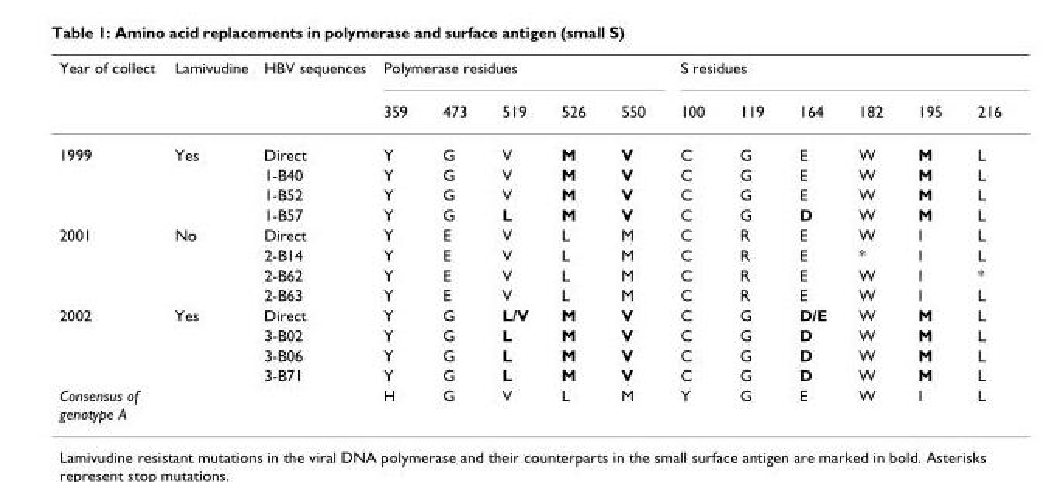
<table><thead><tr><td rowspan="2">Year of collect</td><td rowspan="2">Lamivudine</td><td rowspan="2">HBV sequences</td><td colspan="5">Polymerase residues</td><td colspan="6">S residues</td></tr><tr><td>359</td><td>473</td><td>519</td><td>526</td><td>550</td><td>100</td><td>119</td><td>164</td><td>182</td><td>195</td><td>216</td></tr></thead><tbody><tr><td rowspan="4">1999</td><td>Yes</td><td>Direct</td><td>Y</td><td>G</td><td>V</td><td>M</td><td>V</td><td>C</td><td>G</td><td>E</td><td>W</td><td>M</td><td>L</td></tr><tr><td></td><td>1-B40</td><td>Y</td><td>G</td><td>V</td><td>M</td><td>V</td><td>C</td><td>G</td><td>E</td><td>W</td><td>M</td><td>L</td></tr><tr><td></td><td>1-B52</td><td>Y</td><td>G</td><td>V</td><td>M</td><td>V</td><td>C</td><td>G</td><td>E</td><td>W</td><td>M</td><td>L</td></tr><tr><td></td><td>1-B57</td><td>Y</td><td>G</td><td>L</td><td>M</td><td>V</td><td>C</td><td>G</td><td>D</td><td>W</td><td>M</td><td>L</td></tr><tr><td rowspan="4">2001</td><td>No</td><td>Direct</td><td>Y</td><td>E</td><td>V</td><td>L</td><td>M</td><td>C</td><td>R</td><td>E</td><td>W</td><td>I</td><td>L</td></tr><tr><td></td><td>2-B14</td><td>Y</td><td>E</td><td>V</td><td>L</td><td>M</td><td>C</td><td>R</td><td>E</td><td>*</td><td>I</td><td>L</td></tr><tr><td></td><td>2-B62</td><td>Y</td><td>E</td><td>V</td><td>L</td><td>M</td><td>C</td><td>R</td><td>E</td><td>W</td><td>I</td><td>*</td></tr><tr><td></td><td>2-B63</td><td>Y</td><td>E</td><td>V</td><td>L</td><td>M</td><td>C</td><td>R</td><td>E</td><td>W</td><td>I</td><td>L</td></tr><tr><td rowspan="4">2002</td><td>Yes</td><td>Direct</td><td>Y</td><td>G</td><td>L/V</td><td>M</td><td>V</td><td>C</td><td>G</td><td>D/E</td><td>W</td><td>M</td><td>L</td></tr><tr><td></td><td>3-B02</td><td>Y</td><td>G</td><td>L</td><td>M</td><td>V</td><td>C</td><td>G</td><td>D</td><td>W</td><td>M</td><td>L</td></tr><tr><td></td><td>3-B06</td><td>Y</td><td>G</td><td>L</td><td>M</td><td>V</td><td>C</td><td>G</td><td>D</td><td>W</td><td>M</td><td>L</td></tr><tr><td></td><td>3-B71</td><td>Y</td><td>G</td><td>L</td><td>M</td><td>V</td><td>C</td><td>G</td><td>D</td><td>W</td><td>M</td><td>L</td></tr><tr><td>Consensus of genotype A</td><td></td><td></td><td>H</td><td>G</td><td>V</td><td>L</td><td>M</td><td>Y</td><td>G</td><td>E</td><td>W</td><td>I</td><td>L</td></tr></tbody></table>